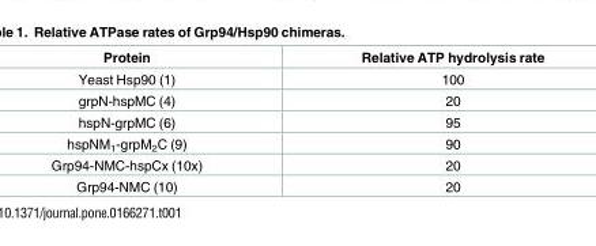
<table><thead><tr><td>Protein</td><td>Relative ATP hydrolysis rate</td></tr></thead><tbody><tr><td>Yeast Hsp90 (1)</td><td>100</td></tr><tr><td>grpN-hspMC (4)</td><td>20</td></tr><tr><td>hspN-grpMC (6)</td><td>95</td></tr><tr><td>hspNM<sub>1</sub>-grpM<sub>2</sub>C (9)</td><td>90</td></tr><tr><td>Grp94-NMC-hspCx (10x)</td><td>20</td></tr><tr><td>Grp94-NMC (10)</td><td>20</td></tr></tbody></table>